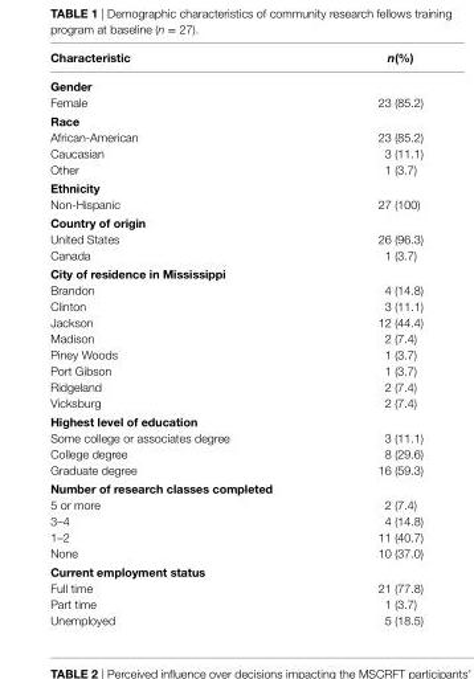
<table><thead><tr><td>Characteristic</td><td>n(%)</td></tr></thead><tbody><tr><td colspan="2">Gender</td></tr><tr><td>Female</td><td>23 (85.2)</td></tr><tr><td colspan="2">Race</td></tr><tr><td>African-American</td><td>23 (85.2)</td></tr><tr><td>Caucasian</td><td>3 (11.1)</td></tr><tr><td>Other</td><td>1 (3.7)</td></tr><tr><td colspan="2">Ethnicity</td></tr><tr><td>Non-Hispanic</td><td>27 (100)</td></tr><tr><td colspan="2">Country of origin</td></tr><tr><td>United States</td><td>26 (96.3)</td></tr><tr><td>Canada</td><td>1 (3.7)</td></tr><tr><td colspan="2">City of residence in Mississippi</td></tr><tr><td>Brandon</td><td>4 (14.8)</td></tr><tr><td>Clinton</td><td>3 (11.1)</td></tr><tr><td>Jackson</td><td>12 (44.4)</td></tr><tr><td>Madison</td><td>2 (7.4)</td></tr><tr><td>Piney Woods</td><td>1 (3.7)</td></tr><tr><td>Port Gibson</td><td>1 (3.7)</td></tr><tr><td>Ridgeland</td><td>2 (7.4)</td></tr><tr><td>Vicksburg</td><td>2 (7.4)</td></tr><tr><td colspan="2">Highest level of education</td></tr><tr><td>Some college or associates degree</td><td>3 (11.1)</td></tr><tr><td>College degree</td><td>8 (29.6)</td></tr><tr><td>Graduate degree</td><td>16 (59.3)</td></tr><tr><td colspan="2">number of research classes completed</td></tr><tr><td>5 or more</td><td>2 (7.4)</td></tr><tr><td>3–4</td><td>4 (14.8)</td></tr><tr><td>1–2</td><td>11 (40.7)</td></tr><tr><td>None</td><td>10 (37.0)</td></tr><tr><td colspan="2">Current employment status</td></tr><tr><td>Full time</td><td>21 (77.8)</td></tr><tr><td>Part time</td><td>1 (3.7)</td></tr><tr><td>Unemployed</td><td>5 (18.5)</td></tr></tbody></table>